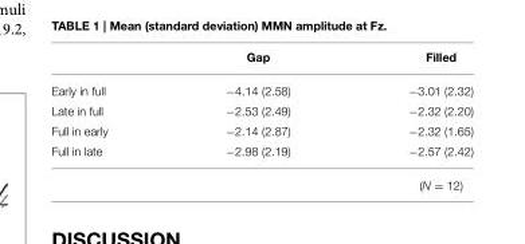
<table><thead><tr><td></td><td>Gap</td><td>Filled</td></tr></thead><tbody><tr><td>Early in full</td><td>−4.14 (2.58)</td><td>−3.01 (2.32)</td></tr><tr><td>Late in full</td><td>−2.53 (2.49)</td><td>−2.32 (2.20)</td></tr><tr><td>Full in early</td><td>−2.14 (2.87)</td><td>−2.32 (1.65)</td></tr><tr><td rowspan="2">Full in late</td><td>−2.98 (2.19)</td><td>−2.57 (2.42)</td></tr><tr><td></td><td>(N = 12)</td></tr></tbody></table>